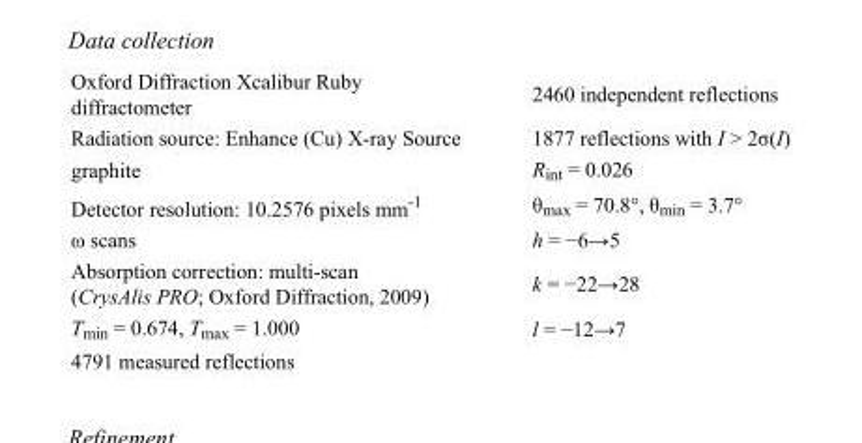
<table><tbody><tr><td>Oxford Diffraction Xcalibur Ruby diffractometer</td><td>2460 independent reflections</td></tr><tr><td>Radiation source: Enhance (Cu) X-ray Source</td><td>1877 reflections with I &gt; 2σ(I)</td></tr><tr><td>graphite</td><td>R<sub>int</sub> = 0.026</td></tr><tr><td>Detector resolution: 10.2576 pixels mm<sup>-1</sup></td><td>θ<sub>max</sub> = 70.8°, θ<sub>min</sub> = 3.7°</td></tr><tr><td>ω scans</td><td>h = −6→5</td></tr><tr><td>Absorption correction: multi-scan (CrysAlis PRO; Oxford Diffraction, 2009)</td><td>k = −22→28</td></tr><tr><td>T<sub>min</sub> = 0.674, T<sub>max</sub> = 1.000</td><td>l = −12→7</td></tr><tr><td>4791 measured reflections</td><td></td></tr></tbody></table>